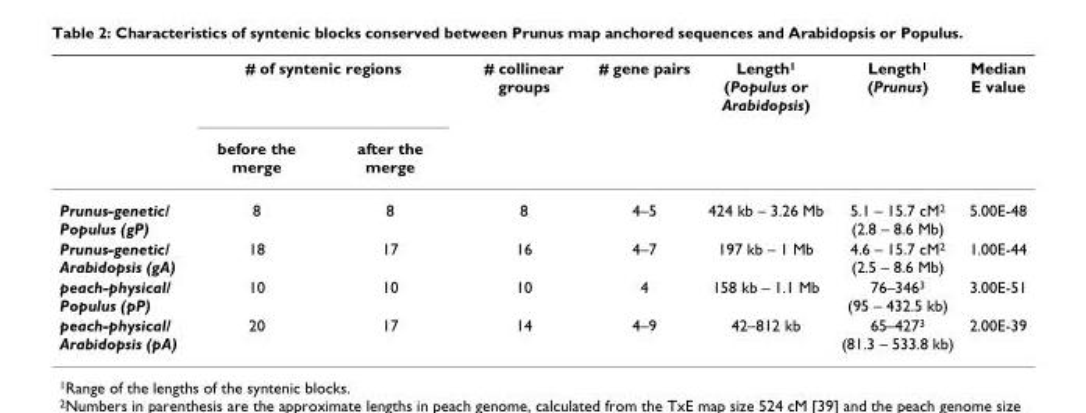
<table><thead><tr><td rowspan="2"></td><td colspan="2"># of syntenic regions</td><td rowspan="2"># collinear groups</td><td rowspan="2"># gene pairs</td><td rowspan="2">Length<sup>1</sup> (Populus or Arabidopsis)</td><td rowspan="2">Length<sup>1</sup> (Prunus)</td><td rowspan="2">Median E value</td></tr><tr><td>before the merge</td><td>after the merge</td></tr></thead><tbody><tr><td>Prunus-genetic/ Populus (gP)</td><td>8</td><td>8</td><td>8</td><td>4–5</td><td>424 kb – 3.26 Mb</td><td>5.1 – 15.7 cM<sup>2</sup> (2.8 – 8.6 Mb)</td><td>5.00E-48</td></tr><tr><td>Prunus-genetic/ Arabidopsis (gA)</td><td>18</td><td>17</td><td>16</td><td>4–7</td><td>197 kb – 1 Mb</td><td>4.6 – 15.7 cM<sup>2</sup> (2.5 – 8.6 Mb)</td><td>1.00E-44</td></tr><tr><td>peach-physical/ Populus (pP)</td><td>10</td><td>10</td><td>10</td><td>4</td><td>158 kb – 1.1 Mb</td><td>76–346<sup>3</sup> (95 – 432.5 kb)</td><td>3.00E-51</td></tr><tr><td>peach-physical/ Arabidopsis (pA)</td><td>20</td><td>17</td><td>14</td><td>4–9</td><td>42–812 kb</td><td>65–427<sup>3</sup> (81.3 – 533.8 kb)</td><td>2.00E-39</td></tr></tbody></table>